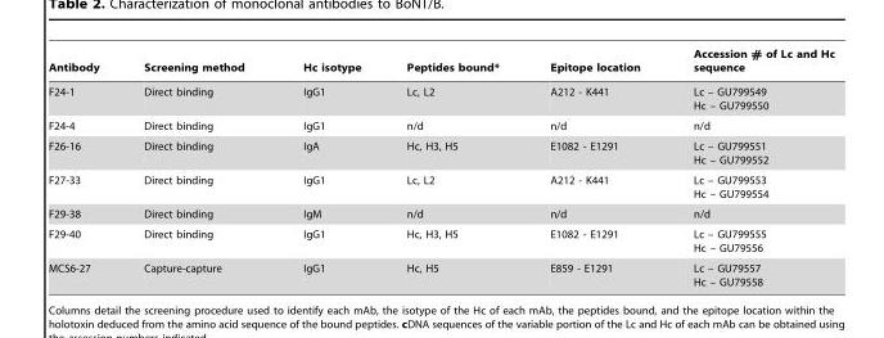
<table><thead><tr><td>Antibody</td><td>Screening method</td><td>Hc isotype</td><td>Peptides bound*</td><td>Epitope location</td><td>Accession # of Lc and Hc sequence</td></tr></thead><tbody><tr><td>F24-1</td><td>Direct binding</td><td>IgG1</td><td>Lc, L2</td><td>A212 - K441</td><td>Lc – GU799549 Hc – GU799550</td></tr><tr><td>F24-4</td><td>Direct binding</td><td>IgG1</td><td>n/d</td><td>n/d</td><td>n/d</td></tr><tr><td>F26-16</td><td>Direct binding</td><td>IgA</td><td>Hc, H3, H5</td><td>E1082 - E1291</td><td>Lc – GU799551 Hc – GU799552</td></tr><tr><td>F27-33</td><td>Direct binding</td><td>IgG1</td><td>Lc, L2</td><td>A212 - K441</td><td>Lc – GU799553 Hc – GU799554</td></tr><tr><td>F29-38</td><td>Direct binding</td><td>IgM</td><td>n/d</td><td>n/d</td><td>n/d</td></tr><tr><td>F29-40</td><td>Direct binding</td><td>IgG1</td><td>Hc, H3, H5</td><td>E1082 - E1291</td><td>Lc – GU799555 Hc – GU79556</td></tr><tr><td>MCS6-27</td><td>Capture-capture</td><td>IgG1</td><td>Hc, H5</td><td>E859 - E1291</td><td>Lc – GU79557 Hc – GU79558</td></tr></tbody></table>